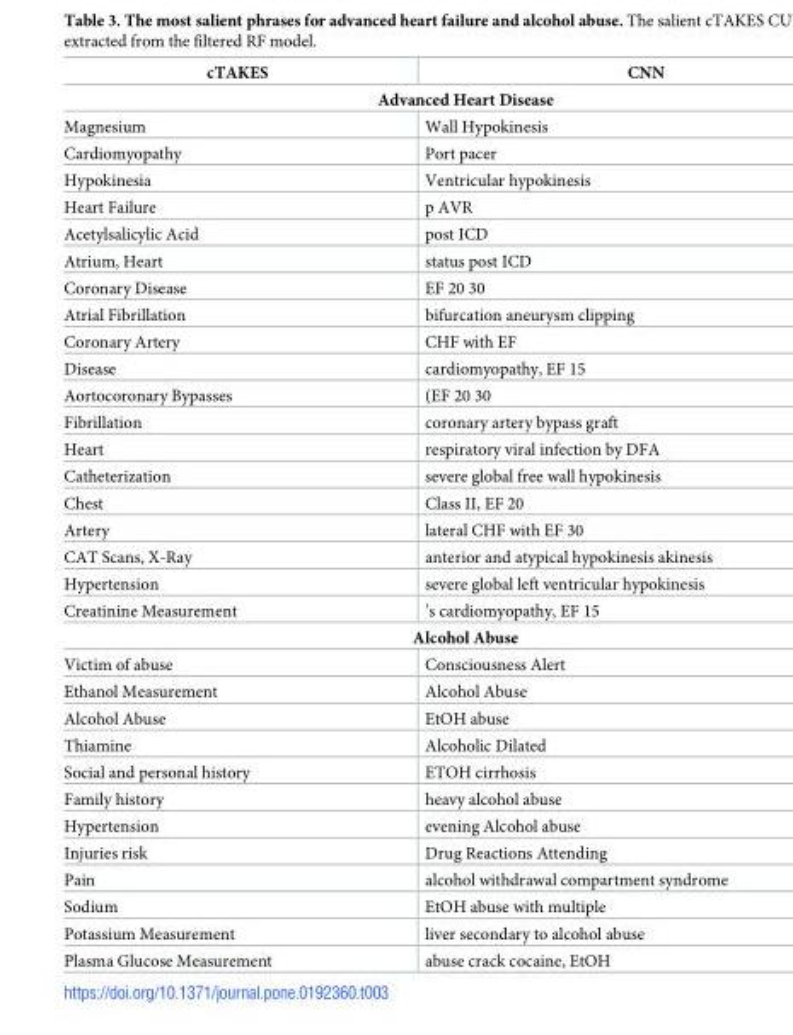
<table><thead><tr><td>cTAKES</td><td>CNN</td></tr></thead><tbody><tr><td colspan="2">Advanced Heart Disease</td></tr><tr><td>Magnesium</td><td>Wall Hypokinesis</td></tr><tr><td>Cardiomyopathy</td><td>Port pacer</td></tr><tr><td>Hypokinesia</td><td>Ventricular hypokinesis</td></tr><tr><td>Heart Failure</td><td>p AVR</td></tr><tr><td>Acetylsalicylic Acid</td><td>post ICD</td></tr><tr><td>Atrium, Heart</td><td>status post ICD</td></tr><tr><td>Coronary Disease</td><td>EF 20 30</td></tr><tr><td>Atrial Fibrillation</td><td>bifurcation aneurysm clipping</td></tr><tr><td>Coronary Artery</td><td>CHF with EF</td></tr><tr><td>Disease</td><td>cardiomyopathy, EF 15</td></tr><tr><td>Aortocoronary Bypasses</td><td>(EF 20 30</td></tr><tr><td>Fibrillation</td><td>coronary artery bypass graft</td></tr><tr><td>Heart</td><td>respiratory viral infection by DFA</td></tr><tr><td>Catheterization</td><td>severe global free wall hypokinesis</td></tr><tr><td>Chest</td><td>Class II, EF 20</td></tr><tr><td>Artery</td><td>lateral CHF with EF 30</td></tr><tr><td>CAT Scans, X-Ray</td><td>anterior and atypical hypokinesis akinesis</td></tr><tr><td>Hypertension</td><td>severe global left ventricular hypokinesis</td></tr><tr><td>Creatinine Measurement</td><td>’s cardiomyopathy, EF 15</td></tr><tr><td colspan="2">Alcohol Abuse</td></tr><tr><td>Victim of abuse</td><td>Consciousness Alert</td></tr><tr><td>Ethanol Measurement</td><td>Alcohol Abuse</td></tr><tr><td>Alcohol Abuse</td><td>EtOH abuse</td></tr><tr><td>Thiamine</td><td>Alcoholic Dilated</td></tr><tr><td>Social and personal history</td><td>ETOH cirrhosis</td></tr><tr><td>Family history</td><td>heavy alcohol abuse</td></tr><tr><td>Hypertension</td><td>evening Alcohol abuse</td></tr><tr><td>Injuries risk</td><td>Drug Reactions Attending</td></tr><tr><td>Pain</td><td>alcohol withdrawal compartment syndrome</td></tr><tr><td>Sodium</td><td>EtOH abuse with multiple</td></tr><tr><td>Potassium Measurement</td><td>liver secondary to alcohol abuse</td></tr><tr><td>Plasma Glucose Measurement</td><td>abuse crack cocaine, EtOH</td></tr></tbody></table>